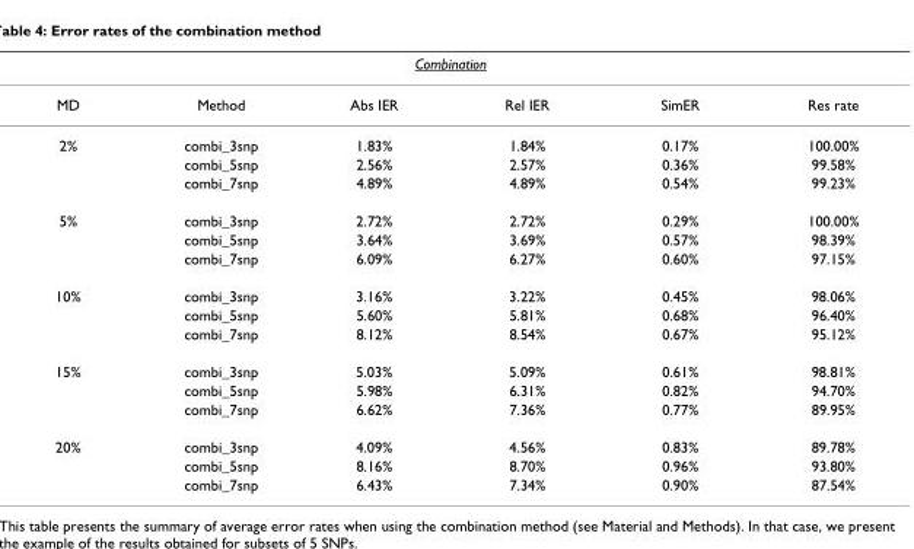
<table><thead><tr><td colspan="6">Combination</td></tr><tr><td>MD</td><td>Method</td><td>Abs IER</td><td>Rel IER</td><td>SimER</td><td>Res rate</td></tr></thead><tbody><tr><td rowspan="3">2%</td><td>combi_3snp</td><td>1.83%</td><td>1.84%</td><td>0.17%</td><td>100.00%</td></tr><tr><td>combi_5snp</td><td>2.56%</td><td>2.57%</td><td>0.36%</td><td>99.58%</td></tr><tr><td>combi_7snp</td><td>4.89%</td><td>4.89%</td><td>0.54%</td><td>99.23%</td></tr><tr><td rowspan="3">5%</td><td>combi_3snp</td><td>2.72%</td><td>2.72%</td><td>0.29%</td><td>100.00%</td></tr><tr><td>combi_5snp</td><td>3.64%</td><td>3.69%</td><td>0.57%</td><td>98.39%</td></tr><tr><td>combi_7snp</td><td>6.09%</td><td>6.27%</td><td>0.60%</td><td>97.15%</td></tr><tr><td rowspan="3">10%</td><td>combi_3snp</td><td>3.16%</td><td>3.22%</td><td>0.45%</td><td>98.06%</td></tr><tr><td>combi_5snp</td><td>5.60%</td><td>5.81%</td><td>0.68%</td><td>96.40%</td></tr><tr><td>combi_7snp</td><td>8.12%</td><td>8.54%</td><td>0.67%</td><td>95.12%</td></tr><tr><td rowspan="3">15%</td><td>combi_3snp</td><td>5.03%</td><td>5.09%</td><td>0.61%</td><td>98.81%</td></tr><tr><td>combi_5snp</td><td>5.98%</td><td>6.31%</td><td>0.82%</td><td>94.70%</td></tr><tr><td>combi_7snp</td><td>6.62%</td><td>7.36%</td><td>0.77%</td><td>89.95%</td></tr><tr><td rowspan="3">20%</td><td>combi_3snp</td><td>4.09%</td><td>4.56%</td><td>0.83%</td><td>89.78%</td></tr><tr><td>combi_5snp</td><td>8.16%</td><td>8.70%</td><td>0.96%</td><td>93.80%</td></tr><tr><td>combi_7snp</td><td>6.43%</td><td>7.34%</td><td>0.90%</td><td>87.54%</td></tr></tbody></table>